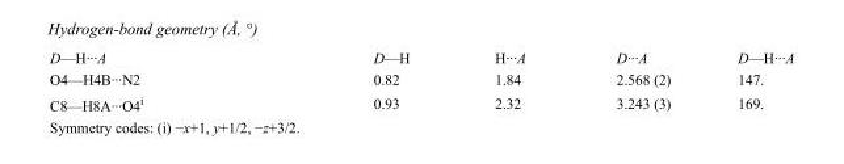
<table><tbody><tr><td>D—H···A</td><td>D—H</td><td>H···A</td><td>D···A</td><td>D—H···A</td></tr><tr><td>O4—H4B···N2</td><td>0.82</td><td>1.84</td><td>2.568 (2)</td><td>147.</td></tr><tr><td>C8—H8A···O4<sup>i</sup></td><td>0.93</td><td>2.32</td><td>3.243 (3)</td><td>169.</td></tr></tbody></table>